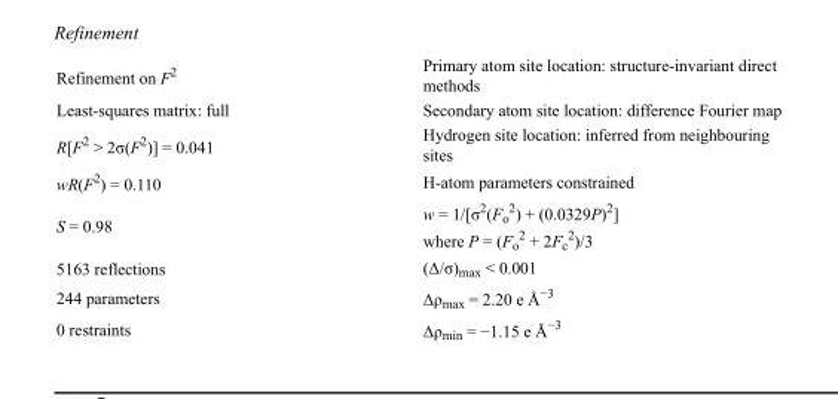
<table><tbody><tr><td>Refinement on F<sup>2</sup></td><td>Primary atom site location: structure-invariant direct methods</td></tr><tr><td>Least-squares matrix: full</td><td>Secondary atom site location: difference Fourier map</td></tr><tr><td>R[F<sup>2</sup> &gt; 2σ(F<sup>2</sup>)] = 0.041</td><td>Hydrogen site location: inferred from neighbouring sites</td></tr><tr><td>wR(F<sup>2</sup>) = 0.110</td><td>H-atom parameters constrained</td></tr><tr><td>S = 0.98</td><td>w = 1/[σ<sup>2</sup>(F<sub>o</sub> <sup>2</sup>) + (0.0329P)<sup>2</sup>] where P = (F<sub>o</sub> <sup>2</sup> + 2F<sub>c</sub> <sup>2</sup>)/3</td></tr><tr><td>5163 reflections</td><td>(Δ/σ)<sub>max</sub> &lt; 0.001</td></tr><tr><td>244 parameters</td><td>Δρ<sub>max</sub> = 2.20 e Å<sup>−3</sup></td></tr><tr><td>0 restraints</td><td>Δρ<sub>min</sub> = −1.15 e Å<sup>−3</sup></td></tr></tbody></table>